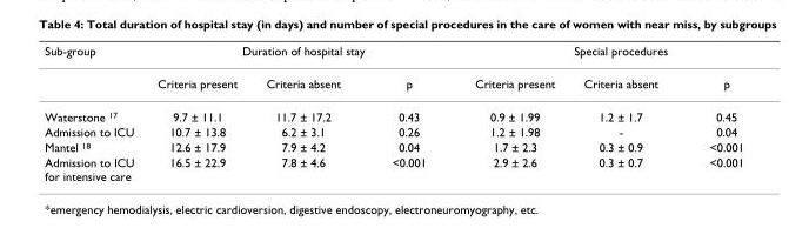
<table><thead><tr><td rowspan="2">Sub-group</td><td colspan="3">Duration of hospital stay</td><td colspan="3">Special procedures</td></tr><tr><td>Criteria present</td><td>Criteria absent</td><td>p</td><td>Criteria present</td><td>Criteria absent</td><td>p</td></tr></thead><tbody><tr><td>Waterstone <sup>17</sup></td><td>9.7 ± 11.1</td><td>11.7 ± 17.2</td><td>0.43</td><td>0.9 ± 1.99</td><td>1.2 ± 1.7</td><td>0.45</td></tr><tr><td>Admission to ICU</td><td>10.7 ± 13.8</td><td>6.2 ± 3.1</td><td>0.26</td><td>1.2 ± 1.98</td><td>-</td><td>0.04</td></tr><tr><td>Mantel <sup>18</sup></td><td>12.6 ± 17.9</td><td>7.9 ± 4.2</td><td>0.04</td><td>1.7 ± 2.3</td><td>0.3 ± 0.9</td><td>&lt;0.001</td></tr><tr><td>Admission to ICU for intensive care</td><td>16.5 ± 22.9</td><td>7.8 ± 4.6</td><td>&lt;0.001</td><td>2.9 ± 2.6</td><td>0.3 ± 0.7</td><td>&lt;0.001</td></tr></tbody></table>